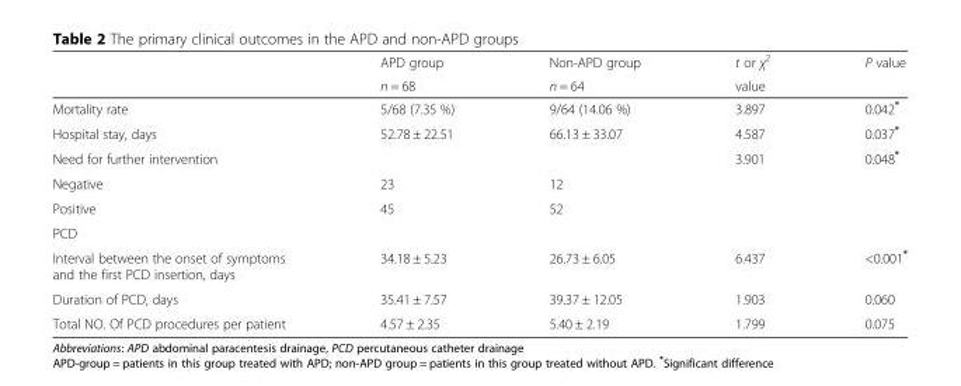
<table><thead><tr><td rowspan="2"></td><td rowspan="2">APD group n = 68</td><td rowspan="2">Non-APD group n = 64</td><td rowspan="2">t or χ<sup>2</sup> value</td><td rowspan="2">P value</td></tr><tr></tr></thead><tbody><tr><td>Mortality rate</td><td>5/68 (7.35 %)</td><td>9/64 (14.06 %)</td><td>3.897</td><td>0.042*</td></tr><tr><td>Hospital stay, days</td><td>52.78 ± 22.51</td><td>66.13 ± 33.07</td><td>4.587</td><td>0.037*</td></tr><tr><td>Need for further intervention</td><td></td><td></td><td>3.901</td><td>0.048*</td></tr><tr><td>Negative</td><td>23</td><td>12</td><td></td><td></td></tr><tr><td>Positive</td><td>45</td><td>52</td><td></td><td></td></tr><tr><td colspan="5">PCD</td></tr><tr><td>Interval between the onset of symptoms and the first PCD insertion, days</td><td>34.18 ± 5.23</td><td>26.73 ± 6.05</td><td>6.437</td><td>&lt;0.001*</td></tr><tr><td>Duration of PCD, days</td><td>35.41 ± 7.57</td><td>39.37 ± 12.05</td><td>1.903</td><td>0.060</td></tr><tr><td>Total NO. Of PCD procedures per patient</td><td>4.57 ± 2.35</td><td>5.40 ± 2.19</td><td>1.799</td><td>0.075</td></tr></tbody></table>